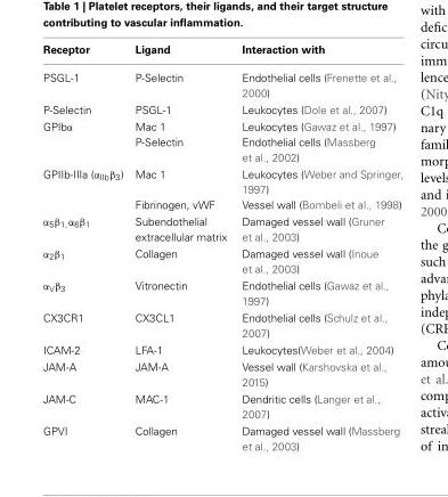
<table><thead><tr><td>Receptor</td><td>Ligand</td><td>Interaction with</td></tr></thead><tbody><tr><td>PSGL-1</td><td>P-Selectin</td><td>Endothelial cells (Frenette et al., 2000)</td></tr><tr><td>P-Selectin</td><td>PSGL-1</td><td>Leukocytes (Dole et al., 2007)</td></tr><tr><td>GPIbα</td><td>Mac 1 P-Selectin</td><td>Leukocytes (Gawaz et al., 1997) Endothelial cells (Massberg et al., 2002)</td></tr><tr><td>GPIIb-IIIa (α<sub>IIb</sub>β<sub>3</sub>)</td><td>Mac 1 Fibrinogen, vWF</td><td>Leukocytes (Weber and Springer, 1997) Vessel wall (Bombeli et al., 1998)</td></tr><tr><td>α<sub>5</sub>β<sub>1</sub>,α<sub>6</sub>β<sub>1</sub></td><td>Subendothelial extracellular matrix</td><td>Damaged vessel wall (Gruner et al., 2003)</td></tr><tr><td>α<sub>2</sub>β<sub>1</sub></td><td>Collagen</td><td>Damaged vessel wall (Inoue et al., 2003)</td></tr><tr><td>α<sub>V</sub>β<sub>3</sub></td><td>Vitronectin</td><td>Endothelial cells (Gawaz et al., 1997)</td></tr><tr><td>CX3CR1</td><td>CX3CL1</td><td>Endothelial cells (Schulz et al., 2007)</td></tr><tr><td>ICAM-2</td><td>LFA-1</td><td>Leukocytes(Weber et al., 2004)</td></tr><tr><td>JAM-A</td><td>JAM-A</td><td>Vessel wall (Karshovska et al., 2015)</td></tr><tr><td>JAM-C</td><td>MAC-1</td><td>Dendritic cells (Langer et al., 2007)</td></tr><tr><td>GPVI</td><td>Collagen</td><td>Damaged vessel wall (Massberg et al., 2003)</td></tr></tbody></table>